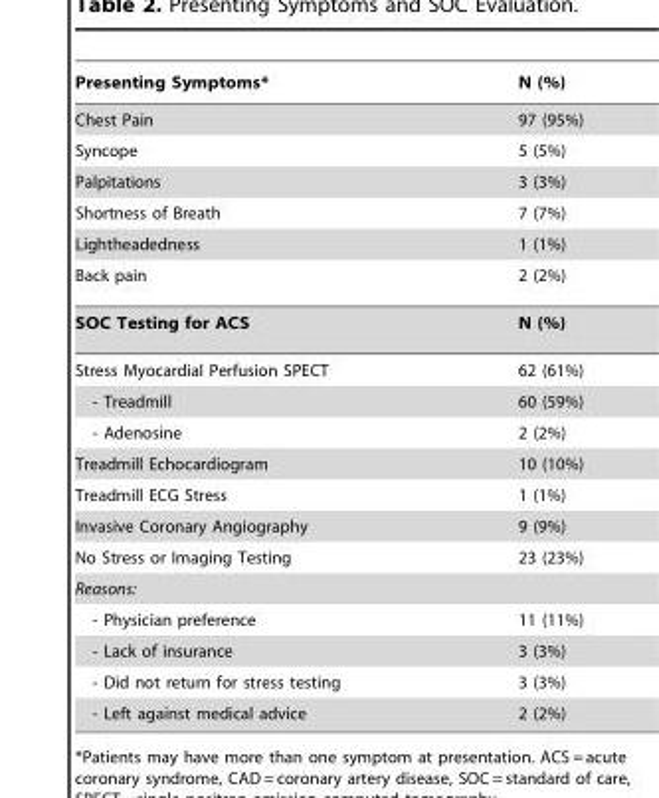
<table><thead><tr><td>Presenting Symptoms*</td><td>N (%)</td></tr></thead><tbody><tr><td>Chest Pain</td><td>97 (95%)</td></tr><tr><td>Syncope</td><td>5 (5%)</td></tr><tr><td>Palpitations</td><td>3 (3%)</td></tr><tr><td>Shortness of Breath</td><td>7 (7%)</td></tr><tr><td>Lightheadedness</td><td>1 (1%)</td></tr><tr><td>Back pain</td><td>2 (2%)</td></tr><tr><td>SOC Testing for ACS</td><td>N (%)</td></tr><tr><td>Stress Myocardial Perfusion SPECT</td><td>62 (61%)</td></tr><tr><td>- Treadmill</td><td>60 (59%)</td></tr><tr><td>- Adenosine</td><td>2 (2%)</td></tr><tr><td>Treadmill Echocardiogram</td><td>10 (10%)</td></tr><tr><td>Treadmill ECG Stress</td><td>1 (1%)</td></tr><tr><td>Invasive Coronary Angiography</td><td>9 (9%)</td></tr><tr><td>No Stress or Imaging Testing</td><td>23 (23%)</td></tr><tr><td colspan="2">Reasons:</td></tr><tr><td>- Physician preference</td><td>11 (11%)</td></tr><tr><td>- Lack of insurance</td><td>3 (3%)</td></tr><tr><td>- Did not return for stress testing</td><td>3 (3%)</td></tr><tr><td>- Left against medical advice</td><td>2 (2%)</td></tr></tbody></table>